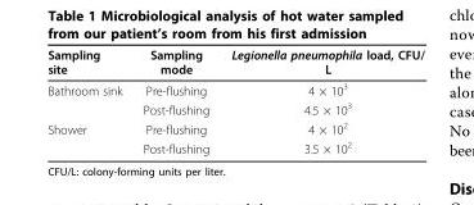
<table><thead><tr><td>Sampling site</td><td>Sampling mode</td><td>Legionella pneumophila load, CFU/ L</td></tr></thead><tbody><tr><td rowspan="2">Bathroom sink</td><td>Pre-flushing</td><td>4 × 10<sup>3</sup></td></tr><tr><td>Post-flushing</td><td>4.5 × 10<sup>3</sup></td></tr><tr><td rowspan="2">Shower</td><td>Pre-flushing</td><td>4 × 10<sup>2</sup></td></tr><tr><td>Post-flushing</td><td>3.5 × 10<sup>2</sup></td></tr></tbody></table>